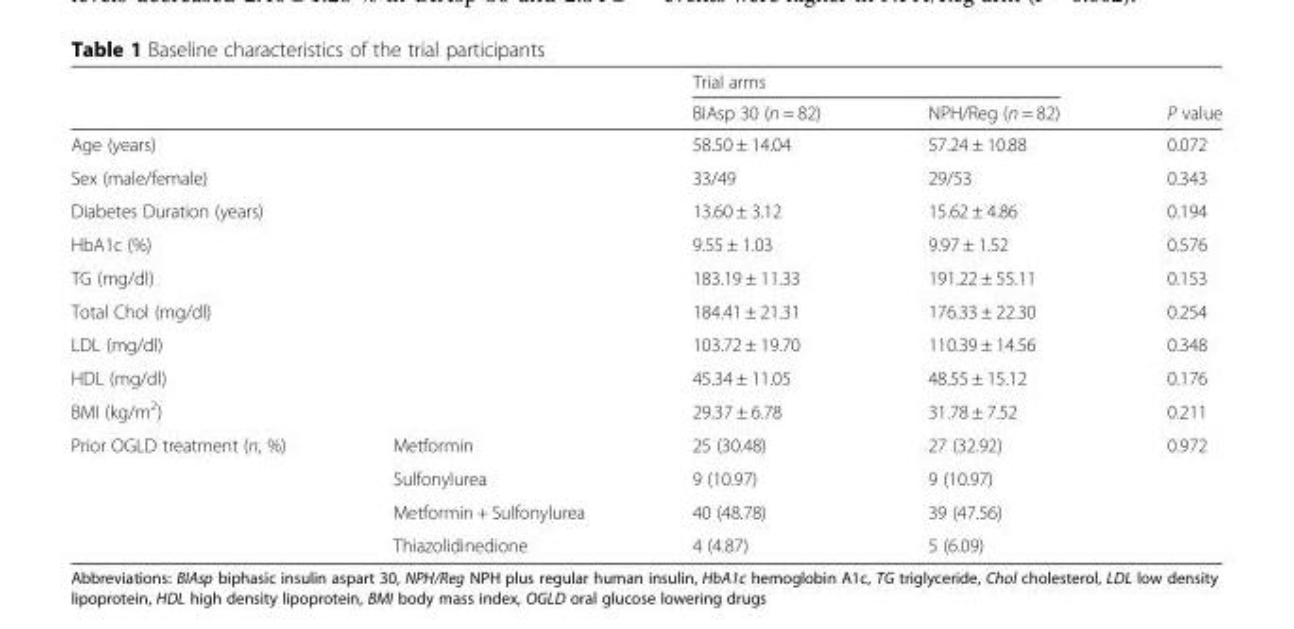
<table><thead><tr><td rowspan="2"></td><td rowspan="2"></td><td colspan="2">Trial arms</td><td rowspan="2">P value</td></tr><tr><td>BIAsp 30 (n = 82)</td><td>NPH/Reg (n = 82)</td></tr></thead><tbody><tr><td colspan="2">Age (years)</td><td>58.50 ± 14.04</td><td>57.24 ± 10.88</td><td>0.072</td></tr><tr><td colspan="2">Sex (male/female)</td><td>33/49</td><td>29/53</td><td>0.343</td></tr><tr><td colspan="2">Diabetes Duration (years)</td><td>13.60 ± 3.12</td><td>15.62 ± 4.86</td><td>0.194</td></tr><tr><td colspan="2">HbA1c (%)</td><td>9.55 ± 1.03</td><td>9.97 ± 1.52</td><td>0.576</td></tr><tr><td colspan="2">TG (mg/dl)</td><td>183.19 ± 11.33</td><td>191.22 ± 55.11</td><td>0.153</td></tr><tr><td colspan="2">Total Chol (mg/dl)</td><td>184.41 ± 21.31</td><td>176.33 ± 22.30</td><td>0.254</td></tr><tr><td colspan="2">LDL (mg/dl)</td><td>103.72 ± 19.70</td><td>110.39 ± 14.56</td><td>0.348</td></tr><tr><td colspan="2">HDL (mg/dl)</td><td>45.34 ± 11.05</td><td>48.55 ± 15.12</td><td>0.176</td></tr><tr><td colspan="2">BMI (kg/m<sup>2</sup>)</td><td>29.37 ± 6.78</td><td>31.78 ± 7.52</td><td>0.211</td></tr><tr><td rowspan="4">Prior OGLD treatment (n, %)</td><td>Metformin</td><td>25 (30.48)</td><td>27 (32.92)</td><td rowspan="4">0.972</td></tr><tr><td>Sulfonylurea</td><td>9 (10.97)</td><td>9 (10.97)</td></tr><tr><td>Metformin + Sulfonylurea</td><td>40 (48.78)</td><td>39 (47.56)</td></tr><tr><td>Thiazolidinedione</td><td>4 (4.87)</td><td>5 (6.09)</td></tr></tbody></table>